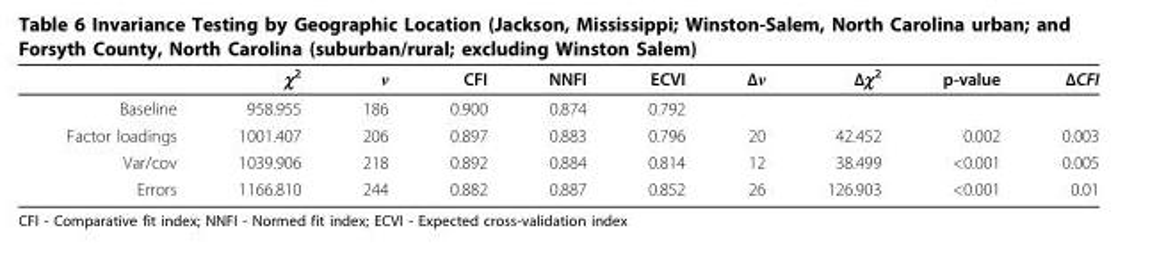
<table><thead><tr><td></td><td>χ<sup>2</sup></td><td>ν</td><td>CFI</td><td>NNFI</td><td>ECVI</td><td>Δν</td><td>Δχ<sup>2</sup></td><td>p-value</td><td>ΔCFI</td></tr></thead><tbody><tr><td>Baseline</td><td>958.955</td><td>186</td><td>0.900</td><td>0.874</td><td>0.792</td><td></td><td></td><td></td><td></td></tr><tr><td>Factor loadings</td><td>1001.407</td><td>206</td><td>0.897</td><td>0.883</td><td>0.796</td><td>20</td><td>42.452</td><td>0.002</td><td>0.003</td></tr><tr><td>Var/cov</td><td>1039.906</td><td>218</td><td>0.892</td><td>0.884</td><td>0.814</td><td>12</td><td>38.499</td><td>&lt;0.001</td><td>0.005</td></tr><tr><td>Errors</td><td>1166.810</td><td>244</td><td>0.882</td><td>0.887</td><td>0.852</td><td>26</td><td>126.903</td><td>&lt;0.001</td><td>0.01</td></tr></tbody></table>